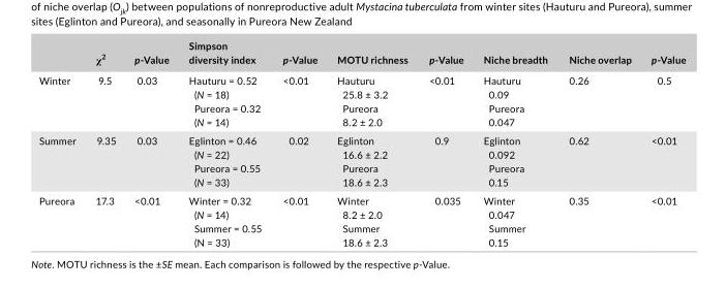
<table><thead><tr><td></td><td>χ<sup>2</sup></td><td>p- Value</td><td>Simpson diversity index</td><td>p- Value</td><td>MOTU richness</td><td>p- Value</td><td>Niche breadth</td><td>Niche overlap</td><td>p- Value</td></tr></thead><tbody><tr><td>Winter</td><td>9.5</td><td>0.03</td><td>Hauturu = 0.52 (N = 18) Pureora = 0.32 (N = 14)</td><td>&lt;0.01</td><td>Hauturu 25.8 ± 3.2 Pureora 8.2 ± 2.0</td><td>&lt;0.01</td><td>Hauturu 0.09 Pureora 0.047</td><td>0.26</td><td>0.5</td></tr><tr><td>Summer</td><td>9.35</td><td>0.03</td><td>Eglinton = 0.46 (N = 22) Pureora = 0.55 (N = 33)</td><td>0.02</td><td>Eglinton 16.6 ± 2.2 Pureora 18.6 ± 2.3</td><td>0.9</td><td>Eglinton 0.092 Pureora 0.15</td><td>0.62</td><td>&lt;0.01</td></tr><tr><td>Pureora</td><td>17.3</td><td>&lt;0.01</td><td>Winter = 0.32 (N = 14) Summer = 0.55 (N = 33)</td><td>&lt;0.01</td><td>Winter 8.2 ± 2.0 Summer 18.6 ± 2.3</td><td>0.035</td><td>Winter 0.047 Summer 0.15</td><td>0.35</td><td>&lt;0.01</td></tr></tbody></table>